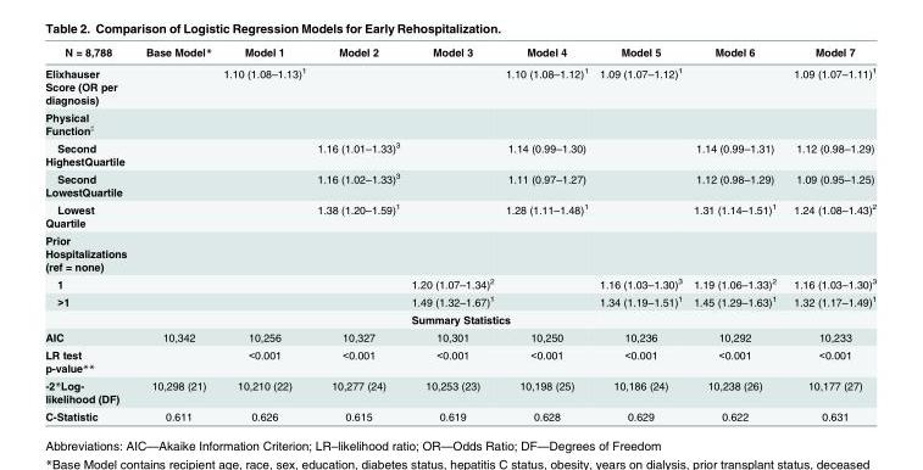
<table><thead><tr><td>N = 8,788</td><td>Base Model*</td><td>Model 1</td><td>Model 2</td><td>Model 3</td><td>Model 4</td><td>Model 5</td><td>Model 6</td><td>Model 7</td></tr></thead><tbody><tr><td>Elixhauser Score (OR per diagnosis)</td><td></td><td>1.10 (1.08–1.13)<sup>1</sup></td><td></td><td></td><td>1.10 (1.08–1.12)<sup>1</sup></td><td>1.09 (1.07–1.12)<sup>1</sup></td><td></td><td>1.09 (1.07–1.11)<sup>1</sup></td></tr><tr><td colspan="9">Physical Function<sup>♯</sup></td></tr><tr><td>Second HighestQuartile</td><td></td><td></td><td>1.16 (1.01–1.33)<sup>3</sup></td><td></td><td>1.14 (0.99–1.30)</td><td></td><td>1.14 (0.99–1.31)</td><td>1.12 (0.98–1.29)</td></tr><tr><td>Second LowestQuartile</td><td></td><td></td><td>1.16 (1.02–1.33)<sup>3</sup></td><td></td><td>1.11 (0.97–1.27)</td><td></td><td>1.12 (0.98–1.29)</td><td>1.09 (0.95–1.25)</td></tr><tr><td>Lowest Quartile</td><td></td><td></td><td>1.38 (1.20–1.59)<sup>1</sup></td><td></td><td>1.28 (1.11–1.48)<sup>1</sup></td><td></td><td>1.31 (1.14–1.51)<sup>1</sup></td><td>1.24 (1.08–1.43)<sup>2</sup></td></tr><tr><td colspan="9">Prior Hospitalizations (ref = none)</td></tr><tr><td>1</td><td></td><td></td><td></td><td>1.20 (1.07–1.34)<sup>2</sup></td><td></td><td>1.16 (1.03–1.30)<sup>3</sup></td><td>1.19 (1.06–1.33)<sup>2</sup></td><td>1.16 (1.03–1.30)<sup>3</sup></td></tr><tr><td>&gt;1</td><td></td><td></td><td></td><td>1.49 (1.32–1.67)<sup>1</sup></td><td></td><td>1.34 (1.19–1.51)<sup>1</sup></td><td>1.45 (1.29–1.63)<sup>1</sup></td><td>1.32 (1.17–1.49)<sup>1</sup></td></tr><tr><td colspan="9">Summary Statistics</td></tr><tr><td>AIC</td><td>10,342</td><td>10,256</td><td>10,327</td><td>10,301</td><td>10,250</td><td>10,236</td><td>10,292</td><td>10,233</td></tr><tr><td>LR test p-value**</td><td></td><td>&lt;0.001</td><td>&lt;0.001</td><td>&lt;0.001</td><td>&lt;0.001</td><td>&lt;0.001</td><td>&lt;0.001</td><td>&lt;0.001</td></tr><tr><td>-2*Log- likelihood (DF)</td><td>10,298 (21)</td><td>10,210 (22)</td><td>10,277 (24)</td><td>10,253 (23)</td><td>10,198 (25)</td><td>10,186 (24)</td><td>10,238 (26)</td><td>10,177 (27)</td></tr><tr><td>C-Statistic</td><td>0.611</td><td>0.626</td><td>0.615</td><td>0.619</td><td>0.628</td><td>0.629</td><td>0.622</td><td>0.631</td></tr></tbody></table>